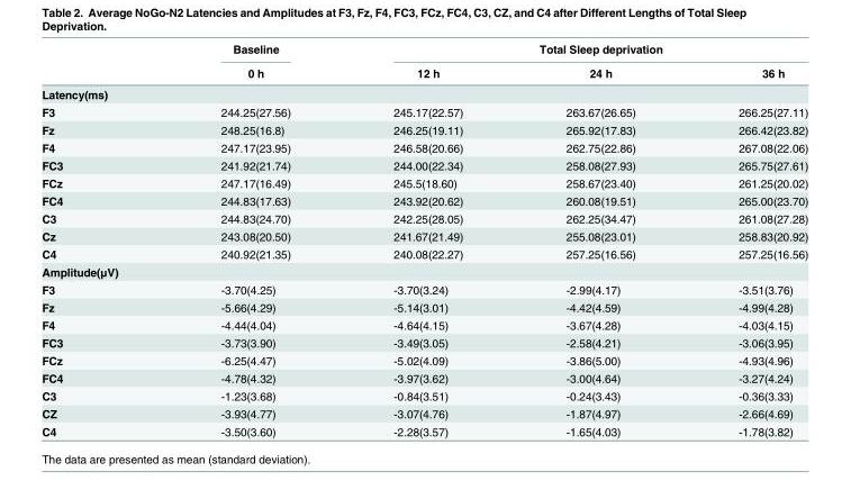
<table><thead><tr><td rowspan="2"></td><td rowspan="2">Baseline 0 h</td><td colspan="3">Total Sleep deprivation</td></tr><tr><td>12 h</td><td>24 h</td><td>36 h</td></tr></thead><tbody><tr><td colspan="5">Latency(ms)</td></tr><tr><td>F3</td><td>244.25(27.56)</td><td>245.17(22.57)</td><td>263.67(26.65)</td><td>266.25(27.11)</td></tr><tr><td>Fz</td><td>248.25(16.8)</td><td>246.25(19.11)</td><td>265.92(17.83)</td><td>266.42(23.82)</td></tr><tr><td>F4</td><td>247.17(23.95)</td><td>246.58(20.66)</td><td>262.75(22.86)</td><td>267.08(22.06)</td></tr><tr><td>FC3</td><td>241.92(21.74)</td><td>244.00(22.34)</td><td>258.08(27.93)</td><td>265.75(27.61)</td></tr><tr><td>FCz</td><td>247.17(16.49)</td><td>245.5(18.60)</td><td>258.67(23.40)</td><td>261.25(20.02)</td></tr><tr><td>FC4</td><td>244.83(17.63)</td><td>243.92(20.62)</td><td>260.08(19.51)</td><td>265.00(23.70)</td></tr><tr><td>C3</td><td>244.83(24.70)</td><td>242.25(28.05)</td><td>262.25(34.47)</td><td>261.08(27.28)</td></tr><tr><td>Cz</td><td>243.08(20.50)</td><td>241.67(21.49)</td><td>255.08(23.01)</td><td>258.83(20.92)</td></tr><tr><td>C4</td><td>240.92(21.35)</td><td>240.08(22.27)</td><td>257.25(16.56)</td><td>257.25(16.56)</td></tr><tr><td colspan="5">Amplitude(μV)</td></tr><tr><td>F3</td><td>-3.70(4.25)</td><td>-3.70(3.24)</td><td>-2.99(4.17)</td><td>-3.51(3.76)</td></tr><tr><td>Fz</td><td>-5.66(4.29)</td><td>-5.14(3.01)</td><td>-4.42(4.59)</td><td>-4.99(4.28)</td></tr><tr><td>F4</td><td>-4.44(4.04)</td><td>-4.64(4.15)</td><td>-3.67(4.28)</td><td>-4.03(4.15)</td></tr><tr><td>FC3</td><td>-3.73(3.90)</td><td>-3.49(3.05)</td><td>-2.58(4.21)</td><td>-3.06(3.95)</td></tr><tr><td>FCz</td><td>-6.25(4.47)</td><td>-5.02(4.09)</td><td>-3.86(5.00)</td><td>-4.93(4.96)</td></tr><tr><td>FC4</td><td>-4.78(4.32)</td><td>-3.97(3.62)</td><td>-3.00(4.64)</td><td>-3.27(4.24)</td></tr><tr><td>C3</td><td>-1.23(3.68)</td><td>-0.84(3.51)</td><td>-0.24(3.43)</td><td>-0.36(3.33)</td></tr><tr><td>CZ</td><td>-3.93(4.77)</td><td>-3.07(4.76)</td><td>-1.87(4.97)</td><td>-2.66(4.69)</td></tr><tr><td>C4</td><td>-3.50(3.60)</td><td>-2.28(3.57)</td><td>-1.65(4.03)</td><td>-1.78(3.82)</td></tr></tbody></table>